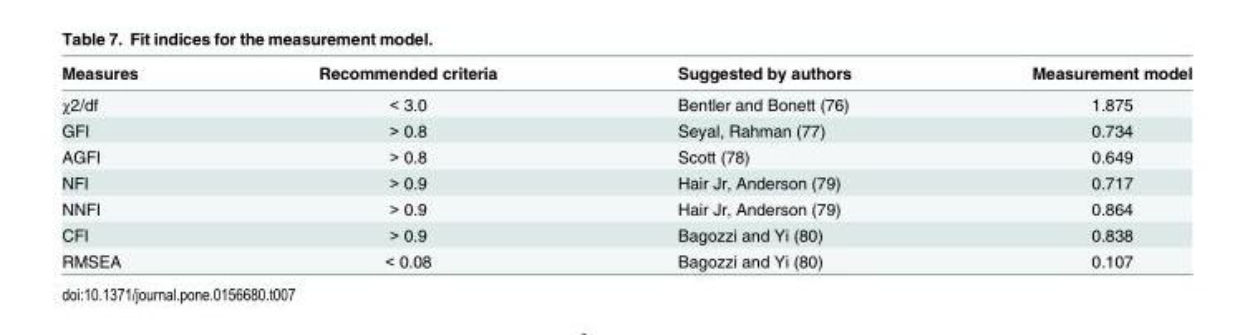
<table><thead><tr><td>Measures</td><td>Recommended criteria</td><td>Suggested by authors</td><td>Measurement model</td></tr></thead><tbody><tr><td>χ2/df</td><td>&lt; 3.0</td><td>Bentler and Bonett (76)</td><td>1.875</td></tr><tr><td>GFI</td><td>&gt; 0.8</td><td>Seyal, Rahman (77)</td><td>0.734</td></tr><tr><td>AGFI</td><td>&gt; 0.8</td><td>Scott (78)</td><td>0.649</td></tr><tr><td>NFI</td><td>&gt; 0.9</td><td>Hair Jr, Anderson (79)</td><td>0.717</td></tr><tr><td>NNFI</td><td>&gt; 0.9</td><td>Hair Jr, Anderson (79)</td><td>0.864</td></tr><tr><td>CFI</td><td>&gt; 0.9</td><td>Bagozzi and Yi (80)</td><td>0.838</td></tr><tr><td>RMSEA</td><td>&lt; 0.08</td><td>Bagozzi and Yi (80)</td><td>0.107</td></tr></tbody></table>